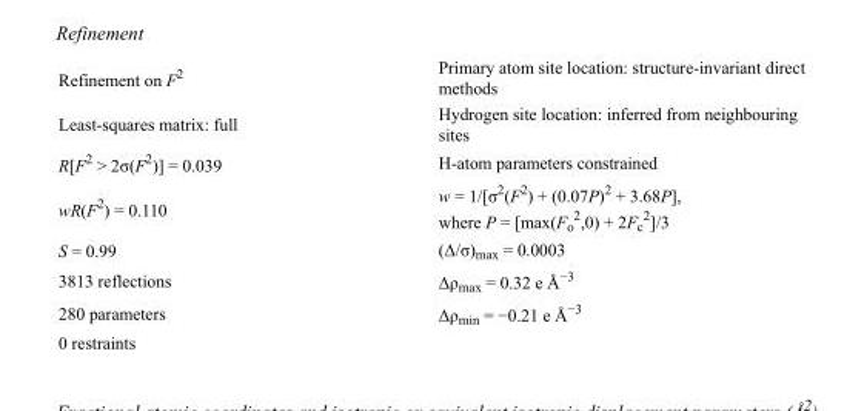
<table><tbody><tr><td>Refinement on F<sup>2</sup></td><td>Primary atom site location: structure-invariant direct methods</td></tr><tr><td>Least-squares matrix: full</td><td>Hydrogen site location: inferred from neighbouring sites</td></tr><tr><td>R[F<sup>2</sup> &gt; 2σ(F<sup>2</sup>)] = 0.039</td><td>H-atom parameters constrained</td></tr><tr><td>wR(F<sup>2</sup>) = 0.110</td><td>w = 1/[σ<sup>2</sup>(F<sup>2</sup>) + (0.07P)<sup>2</sup> + 3.68P], where P = [max(F<sub>o</sub> <sup>2</sup>,0) + 2F<sub>c</sub> <sup>2</sup>]/3</td></tr><tr><td>S = 0.99</td><td>(Δ/σ)<sub>max</sub> = 0.0003</td></tr><tr><td>3813 reflections</td><td>Δρ<sub>max</sub> = 0.32 e Å<sup>−3</sup></td></tr><tr><td>280 parameters</td><td>Δρ<sub>min</sub> = −0.21 e Å<sup>−3</sup></td></tr><tr><td>0 restraints</td><td></td></tr></tbody></table>